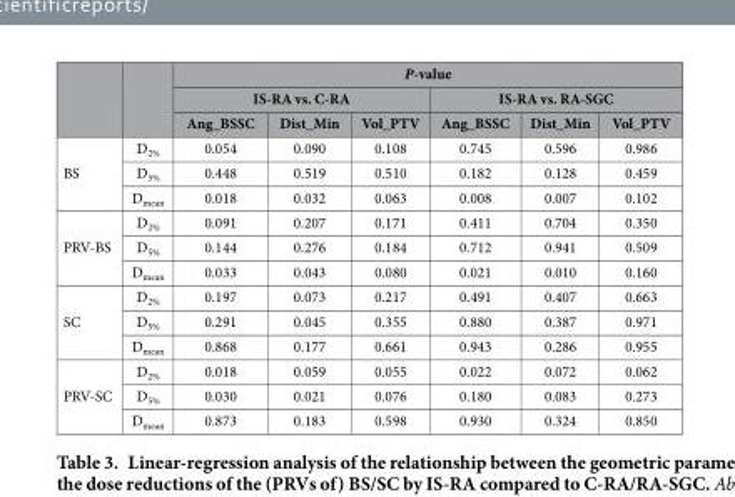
<table><thead><tr><td rowspan="3"></td><td rowspan="3"></td><td colspan="6">P-value</td></tr><tr><td colspan="3">IS-RA vs. C-RA</td><td colspan="3">IS-RA vs. RA-SGC</td></tr><tr><td>Ang_BSSC</td><td>Dist_Min</td><td>Vol_PTV</td><td>Ang_BSSC</td><td>Dist_Min</td><td>Vol_PTV</td></tr></thead><tbody><tr><td rowspan="3">BS</td><td>D<sub>2%</sub></td><td>0.054</td><td>0.090</td><td>0.108</td><td>0.745</td><td>0.596</td><td>0.986</td></tr><tr><td>D<sub>5%</sub></td><td>0.448</td><td>0.519</td><td>0.510</td><td>0.182</td><td>0.128</td><td>0.459</td></tr><tr><td>D<sub>mean</sub></td><td>0.018</td><td>0.032</td><td>0.063</td><td>0.008</td><td>0.007</td><td>0.102</td></tr><tr><td rowspan="3">PRV-BS</td><td>D<sub>2%</sub></td><td>0.091</td><td>0.207</td><td>0.171</td><td>0.411</td><td>0.704</td><td>0.350</td></tr><tr><td>D<sub>5%</sub></td><td>0.144</td><td>0.276</td><td>0.184</td><td>0.712</td><td>0.941</td><td>0.509</td></tr><tr><td>D<sub>mean</sub></td><td>0.033</td><td>0.043</td><td>0.080</td><td>0.021</td><td>0.010</td><td>0.160</td></tr><tr><td rowspan="3">SC</td><td>D<sub>2%</sub></td><td>0.197</td><td>0.073</td><td>0.217</td><td>0.491</td><td>0.407</td><td>0.663</td></tr><tr><td>D<sub>5%</sub></td><td>0.291</td><td>0.045</td><td>0.355</td><td>0.880</td><td>0.387</td><td>0.971</td></tr><tr><td>D<sub>mean</sub></td><td>0.868</td><td>0.177</td><td>0.661</td><td>0.943</td><td>0.286</td><td>0.955</td></tr><tr><td rowspan="3">PRV-SC</td><td>D<sub>2%</sub></td><td>0.018</td><td>0.059</td><td>0.055</td><td>0.022</td><td>0.072</td><td>0.062</td></tr><tr><td>D<sub>5%</sub></td><td>0.030</td><td>0.021</td><td>0.076</td><td>0.180</td><td>0.083</td><td>0.273</td></tr><tr><td>D<sub>mean</sub></td><td>0.873</td><td>0.183</td><td>0.598</td><td>0.930</td><td>0.324</td><td>0.850</td></tr></tbody></table>